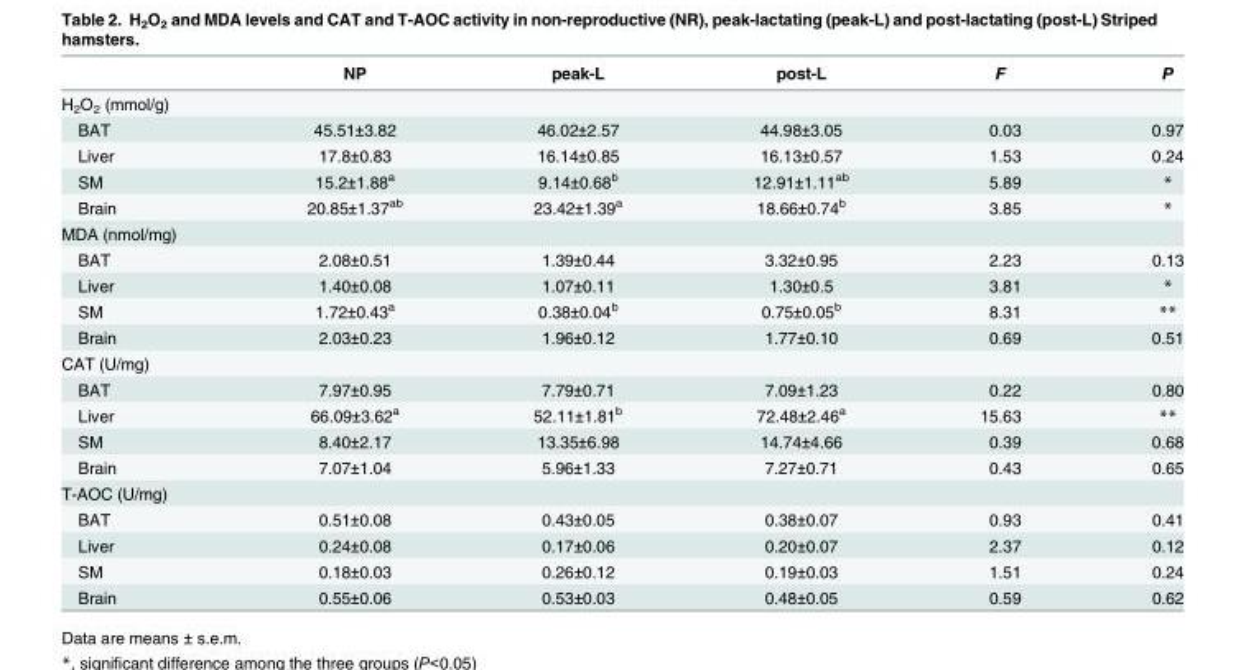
<table><thead><tr><td></td><td>NP</td><td>peak-L</td><td>post-L</td><td>F</td><td>P</td></tr></thead><tbody><tr><td colspan="6">H<sub>2</sub>O<sub>2</sub> (mmol/g)</td></tr><tr><td>BAT</td><td>45.51±3.82</td><td>46.02±2.57</td><td>44.98±3.05</td><td>0.03</td><td>0.97</td></tr><tr><td>Liver</td><td>17.8±0.83</td><td>16.14±0.85</td><td>16.13±0.57</td><td>1.53</td><td>0.24</td></tr><tr><td>SM</td><td>15.2±1.88<sup>a</sup></td><td>9.14±0.68<sup>b</sup></td><td>12.91±1.11<sup>ab</sup></td><td>5.89</td><td>*</td></tr><tr><td>Brain</td><td>20.85±1.37<sup>ab</sup></td><td>23.42±1.39<sup>a</sup></td><td>18.66±0.74<sup>b</sup></td><td>3.85</td><td>*</td></tr><tr><td colspan="6">MDA (nmol/mg)</td></tr><tr><td>BAT</td><td>2.08±0.51</td><td>1.39±0.44</td><td>3.32±0.95</td><td>2.23</td><td>0.13</td></tr><tr><td>Liver</td><td>1.40±0.08</td><td>1.07±0.11</td><td>1.30±0.5</td><td>3.81</td><td>*</td></tr><tr><td>SM</td><td>1.72±0.43<sup>a</sup></td><td>0.38±0.04<sup>b</sup></td><td>0.75±0.05<sup>b</sup></td><td>8.31</td><td>**</td></tr><tr><td>Brain</td><td>2.03±0.23</td><td>1.96±0.12</td><td>1.77±0.10</td><td>0.69</td><td>0.51</td></tr><tr><td colspan="6">CAT (U/mg)</td></tr><tr><td>BAT</td><td>7.97±0.95</td><td>7.79±0.71</td><td>7.09±1.23</td><td>0.22</td><td>0.80</td></tr><tr><td>Liver</td><td>66.09±3.62<sup>a</sup></td><td>52.11±1.81<sup>b</sup></td><td>72.48±2.46<sup>a</sup></td><td>15.63</td><td>**</td></tr><tr><td>SM</td><td>8.40±2.17</td><td>13.35±6.98</td><td>14.74±4.66</td><td>0.39</td><td>0.68</td></tr><tr><td>Brain</td><td>7.07±1.04</td><td>5.96±1.33</td><td>7.27±0.71</td><td>0.43</td><td>0.65</td></tr><tr><td colspan="6">T-AOC (U/mg)</td></tr><tr><td>BAT</td><td>0.51±0.08</td><td>0.43±0.05</td><td>0.38±0.07</td><td>0.93</td><td>0.41</td></tr><tr><td>Liver</td><td>0.24±0.08</td><td>0.17±0.06</td><td>0.20±0.07</td><td>2.37</td><td>0.12</td></tr><tr><td>SM</td><td>0.18±0.03</td><td>0.26±0.12</td><td>0.19±0.03</td><td>1.51</td><td>0.24</td></tr><tr><td>Brain</td><td>0.55±0.06</td><td>0.53±0.03</td><td>0.48±0.05</td><td>0.59</td><td>0.62</td></tr></tbody></table>